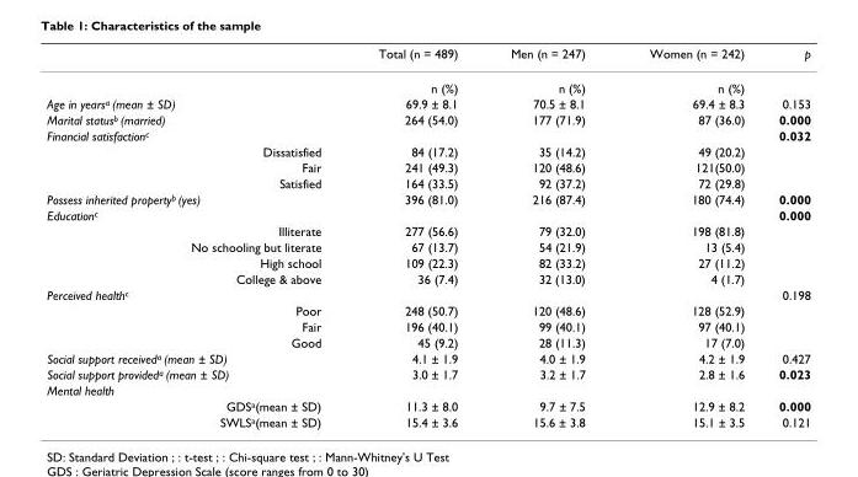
<table><thead><tr><td></td><td>Total (n = 489)</td><td>Men (n = 247)</td><td>Women (n = 242)</td><td>p</td></tr></thead><tbody><tr><td></td><td>n (%)</td><td>n (%)</td><td>n (%)</td><td></td></tr><tr><td>Age in years<sup>a</sup> (mean ± SD)</td><td>69.9 ± 8.1</td><td>70.5 ± 8.1</td><td>69.4 ± 8.3</td><td>0.153</td></tr><tr><td>Marital status<sup>b</sup> (married)</td><td>264 (54.0)</td><td>177 (71.9)</td><td>87 (36.0)</td><td>0.000</td></tr><tr><td>Financial satisfaction<sup>c</sup></td><td></td><td></td><td></td><td>0.032</td></tr><tr><td>Dissatisfied</td><td>84 (17.2)</td><td>35 (14.2)</td><td>49 (20.2)</td><td></td></tr><tr><td>Fair</td><td>241 (49.3)</td><td>120 (48.6)</td><td>121(50.0)</td><td></td></tr><tr><td>Satisfied</td><td>164 (33.5)</td><td>92 (37.2)</td><td>72 (29.8)</td><td></td></tr><tr><td>Possess inherited property<sup>b</sup> (yes)</td><td>396 (81.0)</td><td>216 (87.4)</td><td>180 (74.4)</td><td>0.000</td></tr><tr><td>Education<sup>c</sup></td><td></td><td></td><td></td><td>0.000</td></tr><tr><td>Illiterate</td><td>277 (56.6)</td><td>79 (32.0)</td><td>198 (81.8)</td><td></td></tr><tr><td>No schooling but literate</td><td>67 (13.7)</td><td>54 (21.9)</td><td>13 (5.4)</td><td></td></tr><tr><td>High school</td><td>109 (22.3)</td><td>82 (33.2)</td><td>27 (11.2)</td><td></td></tr><tr><td>College &amp; above</td><td>36 (7.4)</td><td>32 (13.0)</td><td>4 (1.7)</td><td></td></tr><tr><td>Perceived health<sup>c</sup></td><td></td><td></td><td></td><td>0.198</td></tr><tr><td>Poor</td><td>248 (50.7)</td><td>120 (48.6)</td><td>128 (52.9)</td><td></td></tr><tr><td>Fair</td><td>196 (40.1)</td><td>99 (40.1)</td><td>97 (40.1)</td><td></td></tr><tr><td>Good</td><td>45 (9.2)</td><td>28 (11.3)</td><td>17 (7.0)</td><td></td></tr><tr><td>Social support received<sup>a</sup> (mean ± SD)</td><td>4.1 ± 1.9</td><td>4.0 ± 1.9</td><td>4.2 ± 1.9</td><td>0.427</td></tr><tr><td>Social support provided<sup>a</sup> (mean ± SD)</td><td>3.0 ± 1.7</td><td>3.2 ± 1.7</td><td>2.8 ± 1.6</td><td>0.023</td></tr><tr><td colspan="5">Mental health</td></tr><tr><td>GDS<sup>a</sup>(mean ± SD)</td><td>11.3 ± 8.0</td><td>9.7 ± 7.5</td><td>12.9 ± 8.2</td><td>0.000</td></tr><tr><td>SWLS<sup>a</sup>(mean ± SD)</td><td>15.4 ± 3.6</td><td>15.6 ± 3.8</td><td>15.1 ± 3.5</td><td>0.121</td></tr></tbody></table>